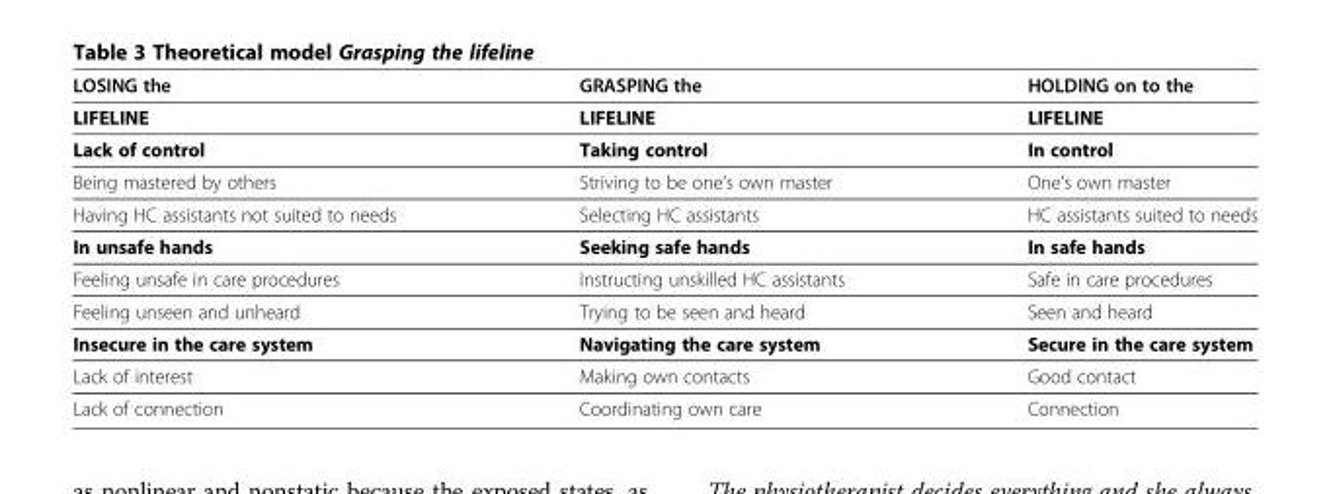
<table><thead><tr><td>LOSING the</td><td>GRASPING the</td><td>HOLDING on to the</td></tr></thead><tbody><tr><td>LIFELINE</td><td>LIFELINE</td><td>LIFELINE</td></tr><tr><td>Lack of control</td><td>Taking control</td><td>In control</td></tr><tr><td>Being mastered by others</td><td>Striving to be one’s own master</td><td>One’s own master</td></tr><tr><td>Having HC assistants not suited to needs</td><td>Selecting HC assistants</td><td>HC assistants suited to needs</td></tr><tr><td>In unsafe hands</td><td>Seeking safe hands</td><td>In safe hands</td></tr><tr><td>Feeling unsafe in care procedures</td><td>Instructing unskilled HC assistants</td><td>Safe in care procedures</td></tr><tr><td>Feeling unseen and unheard</td><td>Trying to be seen and heard</td><td>Seen and heard</td></tr><tr><td>Insecure in the care system</td><td>Navigating the care system</td><td>Secure in the care system</td></tr><tr><td>Lack of interest</td><td>Making own contacts</td><td>Good contact</td></tr><tr><td>Lack of connection</td><td>Coordinating own care</td><td>Connection</td></tr></tbody></table>